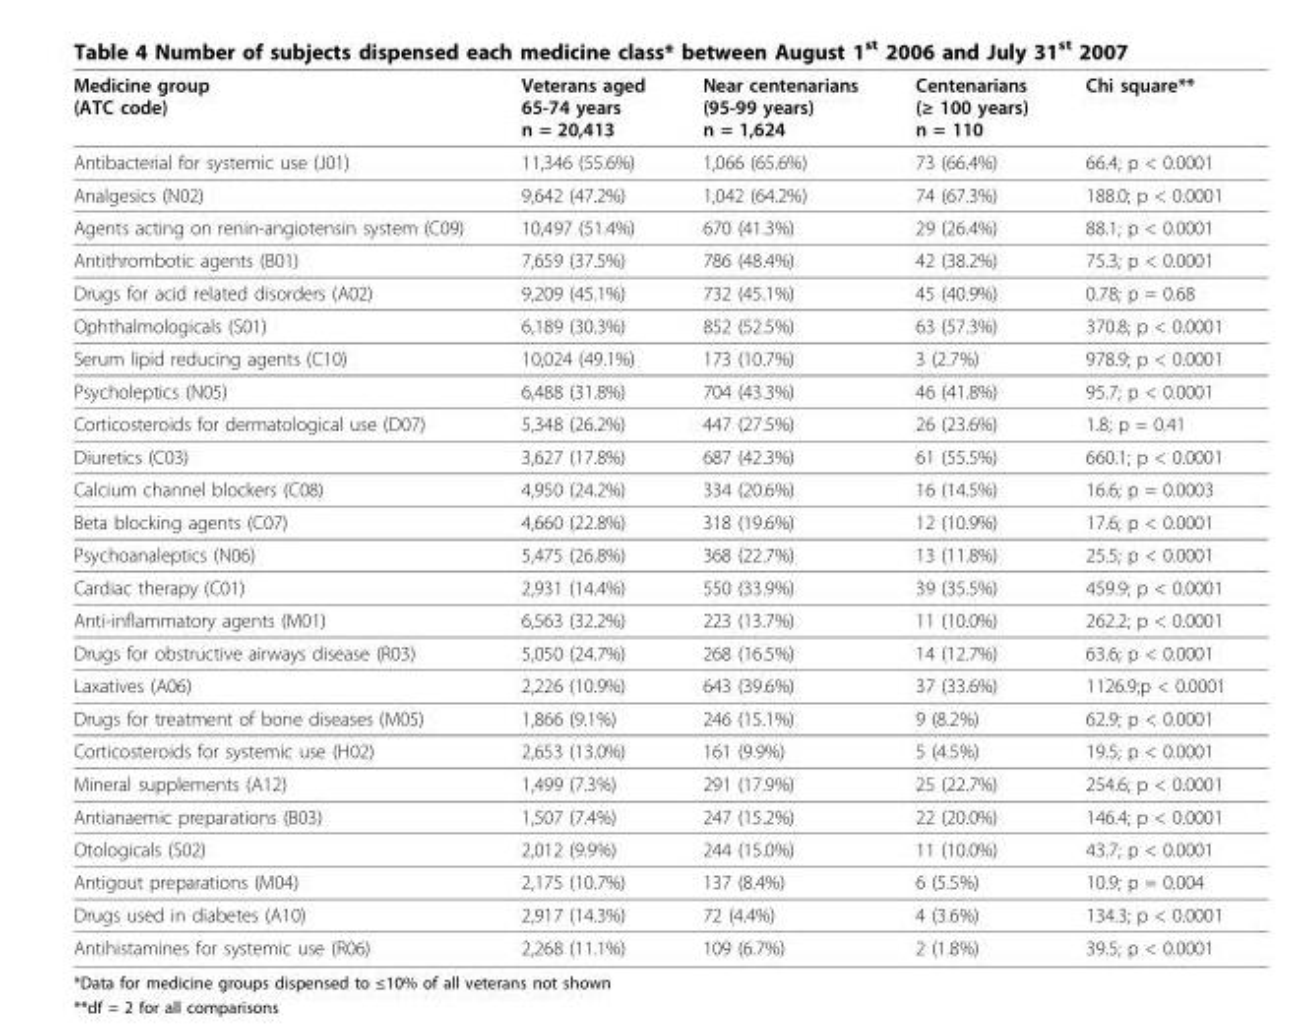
<table><thead><tr><td>Medicine group (ATC code)</td><td>Veterans aged 65-74 years n = 20,413</td><td>Near centenarians (95-99 years) n = 1,624</td><td>Centenarians (≥ 100 years) n = 110</td><td>Chi square**</td></tr></thead><tbody><tr><td>Antibacterial for systemic use (J01)</td><td>11,346 (55.6%)</td><td>1,066 (65.6%)</td><td>73 (66.4%)</td><td>66.4; p &lt; 0.0001</td></tr><tr><td>Analgesics (N02)</td><td>9,642 (47.2%)</td><td>1,042 (64.2%)</td><td>74 (67.3%)</td><td>188.0; p &lt; 0.0001</td></tr><tr><td>Agents acting on renin-angiotensin system (C09)</td><td>10,497 (51.4%)</td><td>670 (41.3%)</td><td>29 (26.4%)</td><td>88.1; p &lt; 0.0001</td></tr><tr><td>Antithrombotic agents (B01)</td><td>7,659 (37.5%)</td><td>786 (48.4%)</td><td>42 (38.2%)</td><td>75.3; p &lt; 0.0001</td></tr><tr><td>Drugs for acid related disorders (A02)</td><td>9,209 (45.1%)</td><td>732 (45.1%)</td><td>45 (40.9%)</td><td>0.78; p = 0.68</td></tr><tr><td>Ophthalmologicals (S01)</td><td>6,189 (30.3%)</td><td>852 (52.5%)</td><td>63 (57.3%)</td><td>370.8; p &lt; 0.0001</td></tr><tr><td>Serum lipid reducing agents (C10)</td><td>10,024 (49.1%)</td><td>173 (10.7%)</td><td>3 (2.7%)</td><td>978.9; p &lt; 0.0001</td></tr><tr><td>Psycholeptics (N05)</td><td>6,488 (31.8%)</td><td>704 (43.3%)</td><td>46 (41.8%)</td><td>95.7; p &lt; 0.0001</td></tr><tr><td>Corticosteroids for dermatological use (D07)</td><td>5,348 (26.2%)</td><td>447 (27.5%)</td><td>26 (23.6%)</td><td>1.8; p = 0.41</td></tr><tr><td>Diuretics (C03)</td><td>3,627 (17.8%)</td><td>687 (42.3%)</td><td>61 (55.5%)</td><td>660.1; p &lt; 0.0001</td></tr><tr><td>Calcium channel blockers (C08)</td><td>4,950 (24.2%)</td><td>334 (20.6%)</td><td>16 (14.5%)</td><td>16.6; p = 0.0003</td></tr><tr><td>Beta blocking agents (C07)</td><td>4,660 (22.8%)</td><td>318 (19.6%)</td><td>12 (10.9%)</td><td>17.6; p &lt; 0.0001</td></tr><tr><td>Psychoanaleptics (N06)</td><td>5,475 (26.8%)</td><td>368 (22.7%)</td><td>13 (11.8%)</td><td>25.5; p &lt; 0.0001</td></tr><tr><td>Cardiac therapy (C01)</td><td>2,931 (14.4%)</td><td>550 (33.9%)</td><td>39 (35.5%)</td><td>459.9; p &lt; 0.0001</td></tr><tr><td>Anti-inflammatory agents (M01)</td><td>6,563 (32.2%)</td><td>223 (13.7%)</td><td>11 (10.0%)</td><td>262.2; p &lt; 0.0001</td></tr><tr><td>Drugs for obstructive airways disease (R03)</td><td>5,050 (24.7%)</td><td>268 (16.5%)</td><td>14 (12.7%)</td><td>63.6; p &lt; 0.0001</td></tr><tr><td>Laxatives (A06)</td><td>2,226 (10.9%)</td><td>643 (39.6%)</td><td>37 (33.6%)</td><td>1126.9;p &lt; 0.0001</td></tr><tr><td>Drugs for treatment of bone diseases (M05)</td><td>1,866 (9.1%)</td><td>246 (15.1%)</td><td>9 (8.2%)</td><td>62.9; p &lt; 0.0001</td></tr><tr><td>Corticosteroids for systemic use (H02)</td><td>2,653 (13.0%)</td><td>161 (9.9%)</td><td>5 (4.5%)</td><td>19.5; p &lt; 0.0001</td></tr><tr><td>Mineral supplements (A12)</td><td>1,499 (7.3%)</td><td>291 (17.9%)</td><td>25 (22.7%)</td><td>254.6; p &lt; 0.0001</td></tr><tr><td>Antianaemic preparations (B03)</td><td>1,507 (7.4%)</td><td>247 (15.2%)</td><td>22 (20.0%)</td><td>146.4; p &lt; 0.0001</td></tr><tr><td>Otologicals (S02)</td><td>2,012 (9.9%)</td><td>244 (15.0%)</td><td>11 (10.0%)</td><td>43.7; p &lt; 0.0001</td></tr><tr><td>Antigout preparations (M04)</td><td>2,175 (10.7%)</td><td>137 (8.4%)</td><td>6 (5.5%)</td><td>10.9; p = 0.004</td></tr><tr><td>Drugs used in diabetes (A10)</td><td>2,917 (14.3%)</td><td>72 (4.4%)</td><td>4 (3.6%)</td><td>134.3; p &lt; 0.0001</td></tr><tr><td>Antihistamines for systemic use (R06)</td><td>2,268 (11.1%)</td><td>109 (6.7%)</td><td>2 (1.8%)</td><td>39.5; p &lt; 0.0001</td></tr></tbody></table>